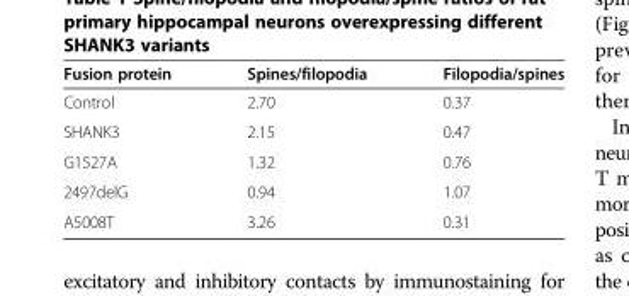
<table><thead><tr><td>Fusion protein</td><td>Spines/filopodia</td><td>Filopodia/spines</td></tr></thead><tbody><tr><td>Control</td><td>2.70</td><td>0.37</td></tr><tr><td>SHANK3</td><td>2.15</td><td>0.47</td></tr><tr><td>G1527A</td><td>1.32</td><td>0.76</td></tr><tr><td>2497delG</td><td>0.94</td><td>1.07</td></tr><tr><td>A5008T</td><td>3.26</td><td>0.31</td></tr></tbody></table>